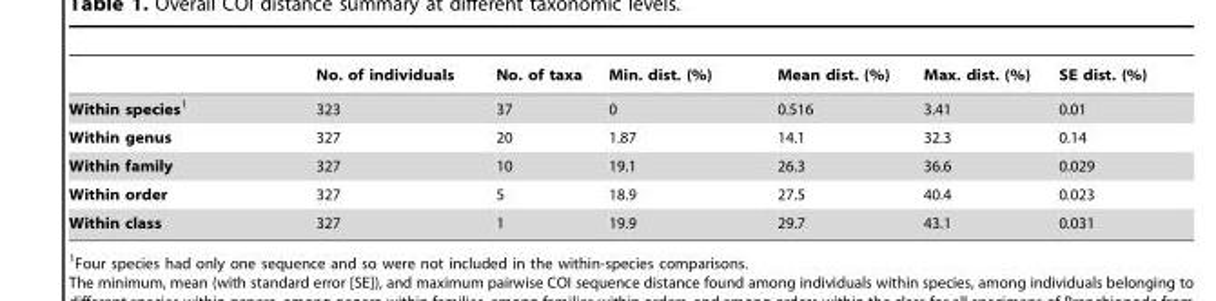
<table><thead><tr><td></td><td>No. of individuals</td><td>No. of taxa</td><td>Min. dist. (%)</td><td>Mean dist. (%)</td><td>Max. dist. (%)</td><td>SE dist. (%)</td></tr></thead><tbody><tr><td>Within species1</td><td>323</td><td>37</td><td>0</td><td>0.516</td><td>3.41</td><td>0.01</td></tr><tr><td>Within genus</td><td>327</td><td>20</td><td>1.87</td><td>14.1</td><td>32.3</td><td>0.14</td></tr><tr><td>Within family</td><td>327</td><td>10</td><td>19.1</td><td>26.3</td><td>36.6</td><td>0.029</td></tr><tr><td>Within order</td><td>327</td><td>5</td><td>18.9</td><td>27.5</td><td>40.4</td><td>0.023</td></tr><tr><td>Within class</td><td>327</td><td>1</td><td>19.9</td><td>29.7</td><td>43.1</td><td>0.031</td></tr></tbody></table>